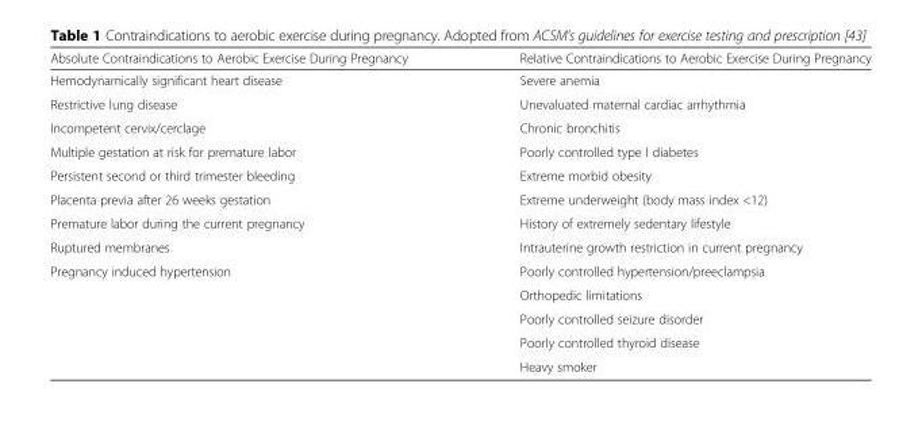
<table><thead><tr><td>Absolute Contraindications to Aerobic Exercise During Pregnancy</td><td>Relative Contraindications to Aerobic Exercise During Pregnancy</td></tr></thead><tbody><tr><td>Hemodynamically significant heart disease</td><td>Severe anemia</td></tr><tr><td>Restrictive lung disease</td><td>Unevaluated maternal cardiac arrhythmia</td></tr><tr><td>Incompetent cervix/cerclage</td><td>Chronic bronchitis</td></tr><tr><td>Multiple gestation at risk for premature labor</td><td>Poorly controlled type I diabetes</td></tr><tr><td>Persistent second or third trimester bleeding</td><td>Extreme morbid obesity</td></tr><tr><td>Placenta previa after 26 weeks gestation</td><td>Extreme underweight (body mass index &lt;12)</td></tr><tr><td>Premature labor during the current pregnancy</td><td>History of extremely sedentary lifestyle</td></tr><tr><td>Ruptured membranes</td><td>Intrauterine growth restriction in current pregnancy</td></tr><tr><td rowspan="5">Pregnancy induced hypertension</td><td>Poorly controlled hypertension/preeclampsia</td></tr><tr><td>Orthopedic limitations</td></tr><tr><td>Poorly controlled seizure disorder</td></tr><tr><td>Poorly controlled thyroid disease</td></tr><tr><td>Heavy smoker</td></tr></tbody></table>